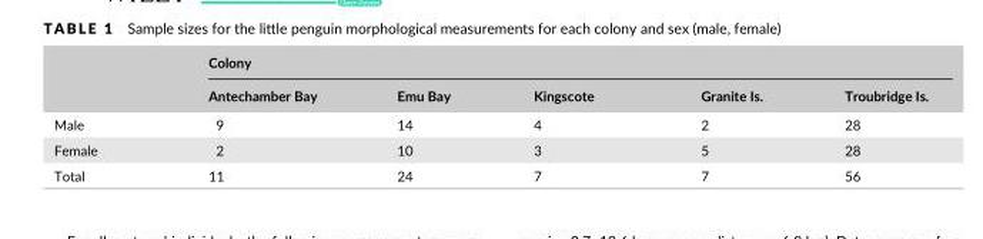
<table><thead><tr><td rowspan="2"></td><td colspan="5">Colony</td></tr><tr><td>Antechamber Bay</td><td>Emu Bay</td><td>Kingscote</td><td>Granite Is.</td><td>Troubridge Is.</td></tr></thead><tbody><tr><td>Male</td><td>9</td><td>14</td><td>4</td><td>2</td><td>28</td></tr><tr><td>Female</td><td>2</td><td>10</td><td>3</td><td>5</td><td>28</td></tr><tr><td>Total</td><td>11</td><td>24</td><td>7</td><td>7</td><td>56</td></tr></tbody></table>